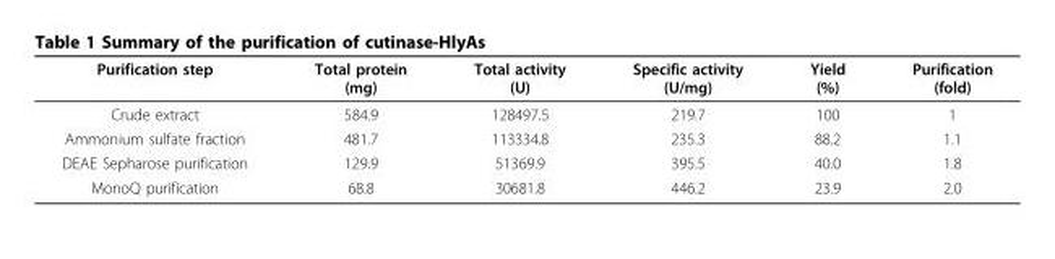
<table><thead><tr><td>Purification step</td><td>Total protein (mg)</td><td>Total activity (U)</td><td>Specific activity (U/mg)</td><td>Yield (%)</td><td>Purification (fold)</td></tr></thead><tbody><tr><td>Crude extract</td><td>584.9</td><td>128497.5</td><td>219.7</td><td>100</td><td>1</td></tr><tr><td>Ammonium sulfate fraction</td><td>481.7</td><td>113334.8</td><td>235.3</td><td>88.2</td><td>1.1</td></tr><tr><td>DEAE Sepharose purification</td><td>129.9</td><td>51369.9</td><td>395.5</td><td>40.0</td><td>1.8</td></tr><tr><td>MonoQ purification</td><td>68.8</td><td>30681.8</td><td>446.2</td><td>23.9</td><td>2.0</td></tr></tbody></table>